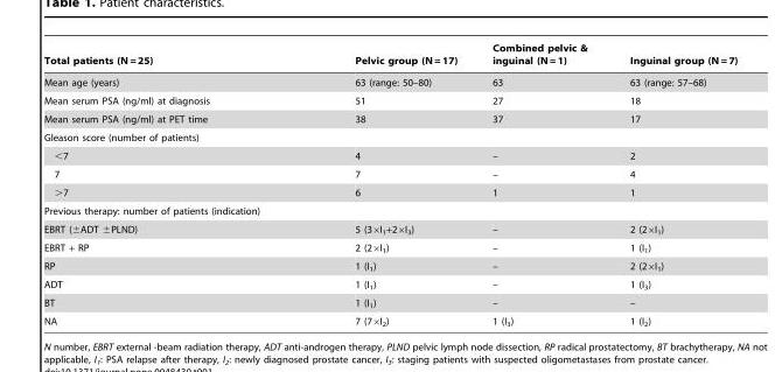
<table><thead><tr><td>Total patients (N = 25)</td><td>Pelvic group (N = 17)</td><td>Combined pelvic &amp; inguinal (N = 1)</td><td>Inguinal group (N = 7)</td></tr></thead><tbody><tr><td>Mean age (years)</td><td>63 (range: 50–80)</td><td>63</td><td>63 (range: 57–68)</td></tr><tr><td>Mean serum PSA (ng/ml) at diagnosis</td><td>51</td><td>27</td><td>18</td></tr><tr><td>Mean serum PSA (ng/ml) at PET time</td><td>38</td><td>37</td><td>17</td></tr><tr><td colspan="4">Gleason score (number of patients)</td></tr><tr><td>&lt;7</td><td>4</td><td>–</td><td>2</td></tr><tr><td>7</td><td>7</td><td>–</td><td>4</td></tr><tr><td>&gt;7</td><td>6</td><td>1</td><td>1</td></tr><tr><td colspan="4">Previous therapy: number of patients (indication)</td></tr><tr><td>EBRT (±ADT ±PLND)</td><td>5 (3×I<sub>1</sub>+2×I<sub>3</sub>)</td><td>–</td><td>2 (2×I<sub>1</sub>)</td></tr><tr><td>EBRT + RP</td><td>2 (2×I<sub>1</sub>)</td><td>–</td><td>1 (I<sub>1</sub>)</td></tr><tr><td>RP</td><td>1 (I<sub>1</sub>)</td><td>–</td><td>2 (2×I<sub>1</sub>)</td></tr><tr><td>ADT</td><td>1 (I<sub>1</sub>)</td><td>–</td><td>1 (I<sub>3</sub>)</td></tr><tr><td>BT</td><td>1 (I<sub>1</sub>)</td><td>–</td><td>–</td></tr><tr><td>NA</td><td>7 (7×I<sub>2</sub>)</td><td>1 (I<sub>3</sub>)</td><td>1 (I<sub>2</sub>)</td></tr></tbody></table>